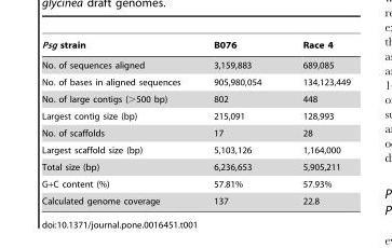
<table><thead><tr><td>Psg strain</td><td>B076</td><td>Race 4</td></tr></thead><tbody><tr><td>No. of sequences aligned</td><td>3,159,883</td><td>689,085</td></tr><tr><td>No. of bases in aligned sequences</td><td>905,980,054</td><td>134,123,449</td></tr><tr><td>No. of large contigs (&gt;500 bp)</td><td>802</td><td>448</td></tr><tr><td>Largest contig size (bp)</td><td>215,091</td><td>128,993</td></tr><tr><td>No. of scaffolds</td><td>17</td><td>28</td></tr><tr><td>Largest scaffold size (bp)</td><td>5,103,126</td><td>1,164,000</td></tr><tr><td>Total size (bp)</td><td>6,236,653</td><td>5,905,211</td></tr><tr><td>G+C content (%)</td><td>57.81%</td><td>57.93%</td></tr><tr><td>Calculated genome coverage</td><td>137</td><td>22.8</td></tr></tbody></table>